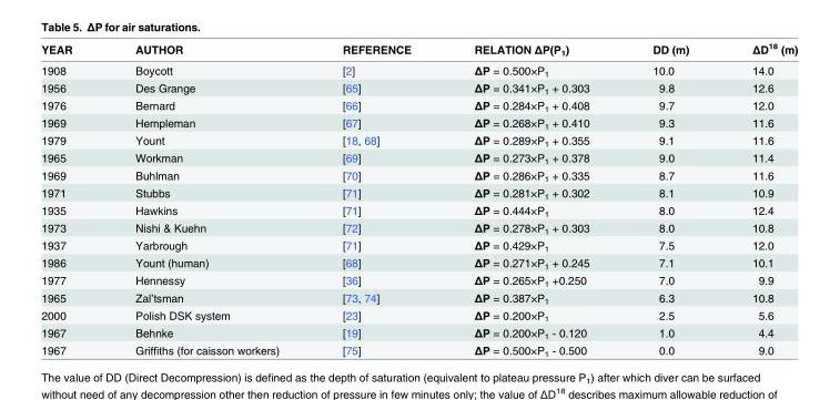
<table><thead><tr><td>YEAR</td><td>AUTHOR</td><td>REFERENCE</td><td>RELATION ΔP(P<sub>1</sub>)</td><td>DD (m)</td><td>ΔD<sup>18</sup> (m)</td></tr></thead><tbody><tr><td>1908</td><td>Boycott</td><td>[2]</td><td>ΔP = 0.500×P<sub>1</sub></td><td>10.0</td><td>14.0</td></tr><tr><td>1956</td><td>Des Grange</td><td>[65]</td><td>ΔP = 0.341×P<sub>1</sub> + 0.303</td><td>9.8</td><td>12.6</td></tr><tr><td>1976</td><td>Bernard</td><td>[66]</td><td>ΔP = 0.284×P<sub>1</sub> + 0.408</td><td>9.7</td><td>12.0</td></tr><tr><td>1969</td><td>Hempleman</td><td>[67]</td><td>ΔP = 0.268×P<sub>1</sub> + 0.410</td><td>9.3</td><td>11.6</td></tr><tr><td>1979</td><td>Yount</td><td>[18, 68]</td><td>ΔP = 0.289×P<sub>1</sub> + 0.355</td><td>9.1</td><td>11.6</td></tr><tr><td>1965</td><td>Workman</td><td>[69]</td><td>ΔP = 0.273×P<sub>1</sub> + 0.378</td><td>9.0</td><td>11.4</td></tr><tr><td>1969</td><td>Buhlman</td><td>[70]</td><td>ΔP = 0.286×P<sub>1</sub> + 0.335</td><td>8.7</td><td>11.6</td></tr><tr><td>1971</td><td>Stubbs</td><td>[71]</td><td>ΔP = 0.281×P<sub>1</sub> + 0.302</td><td>8.1</td><td>10.9</td></tr><tr><td>1935</td><td>Hawkins</td><td>[71]</td><td>ΔP = 0.444×P<sub>1</sub></td><td>8.0</td><td>12.4</td></tr><tr><td>1973</td><td>Nishi &amp; Kuehn</td><td>[72]</td><td>ΔP = 0.278×P<sub>1</sub> + 0.303</td><td>8.0</td><td>10.8</td></tr><tr><td>1937</td><td>Yarbrough</td><td>[71]</td><td>ΔP = 0.429×P<sub>1</sub></td><td>7.5</td><td>12.0</td></tr><tr><td>1986</td><td>Yount (human)</td><td>[68]</td><td>ΔP = 0.271×P<sub>1</sub> + 0.245</td><td>7.1</td><td>10.1</td></tr><tr><td>1977</td><td>Hennessy</td><td>[36]</td><td>ΔP = 0.265×P<sub>1</sub> +0.250</td><td>7.0</td><td>9.9</td></tr><tr><td>1965</td><td>Zal’tsman</td><td>[73, 74]</td><td>ΔP = 0.387×P<sub>1</sub></td><td>6.3</td><td>10.8</td></tr><tr><td>2000</td><td>Polish DSK system</td><td>[23]</td><td>ΔP = 0.200×P<sub>1</sub></td><td>2.5</td><td>5.6</td></tr><tr><td>1967</td><td>Behnke</td><td>[19]</td><td>ΔP = 0.200×P<sub>1</sub> - 0.120</td><td>1.0</td><td>4.4</td></tr><tr><td>1967</td><td>Griffiths (for caisson workers)</td><td>[75]</td><td>ΔP = 0.500×P<sub>1</sub> - 0.500</td><td>0.0</td><td>9.0</td></tr></tbody></table>